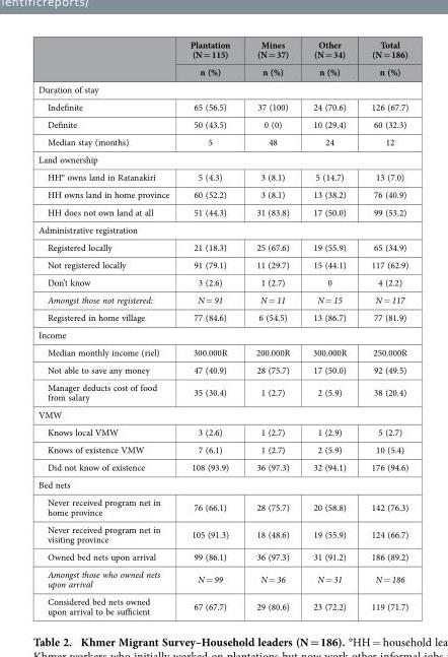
<table><thead><tr><td rowspan="2"></td><td rowspan="2">Plantation (N = 115) n (%)</td><td rowspan="2">Mines (N = 37) n (%)</td><td rowspan="2">Other (N = 34) n (%)</td><td rowspan="2">Total (N = 186) n (%)</td></tr><tr></tr></thead><tbody><tr><td colspan="5">Duration of stay</td></tr><tr><td>Indefinite</td><td>65 (56.5)</td><td>37 (100)</td><td>24 (70.6)</td><td>126 (67.7)</td></tr><tr><td>Definite</td><td>50 (43.5)</td><td>0 (0)</td><td>10 (29.4)</td><td>60 (32.3)</td></tr><tr><td>Median stay (months)</td><td>5</td><td>48</td><td>24</td><td>12</td></tr><tr><td colspan="5">Land ownership</td></tr><tr><td>HH° owns land in Ratanakiri</td><td>5 (4.3)</td><td>3 (8.1)</td><td>5 (14.7)</td><td>13 (7.0)</td></tr><tr><td>HH owns land in home province</td><td>60 (52.2)</td><td>3 (8.1)</td><td>13 (38.2)</td><td>76 (40.9)</td></tr><tr><td>HH does not own land at all</td><td>51 (44.3)</td><td>31 (83.8)</td><td>17 (50.0)</td><td>99 (53.2)</td></tr><tr><td colspan="5">Administrative registration</td></tr><tr><td>Registered locally</td><td>21 (18.3)</td><td>25 (67.6)</td><td>19 (55.9)</td><td>65 (34.9)</td></tr><tr><td>Not registered locally</td><td>91 (79.1)</td><td>11 (29.7)</td><td>15 (44.1)</td><td>117 (62.9)</td></tr><tr><td>Don’t know</td><td>3 (2.6)</td><td>1 (2.7)</td><td>0</td><td>4 (2.2)</td></tr><tr><td>Amongst those not registered:</td><td>N = 91</td><td>N = 11</td><td>N = 15</td><td>N = 117</td></tr><tr><td>Registered in home village</td><td>77 (84.6)</td><td>6 (54.5)</td><td>13 (86.7)</td><td>77 (81.9)</td></tr><tr><td colspan="5">Income</td></tr><tr><td>Median monthly income (riel)</td><td>300.000R</td><td>200.000R</td><td>300.000R</td><td>250.000R</td></tr><tr><td>Not able to save any money</td><td>47 (40.9)</td><td>28 (75.7)</td><td>17 (50.0)</td><td>92 (49.5)</td></tr><tr><td>Manager deducts cost of food from salary</td><td>35 (30.4)</td><td>1 (2.7)</td><td>2 (5.9)</td><td>38 (20.4)</td></tr><tr><td colspan="5">VMW</td></tr><tr><td>Knows local VMW</td><td>3 (2.6)</td><td>1 (2.7)</td><td>1 (2.9)</td><td>5 (2.7)</td></tr><tr><td>Knows of existence VMW</td><td>7 (6.1)</td><td>1 (2.7)</td><td>2 (5.9)</td><td>10 (5.4)</td></tr><tr><td>Did not know of existence</td><td>108 (93.9)</td><td>36 (97.3)</td><td>32 (94.1)</td><td>176 (94.6)</td></tr><tr><td colspan="5">Bed nets</td></tr><tr><td>Never received program net in home province</td><td>76 (66.1)</td><td>28 (75.7)</td><td>20 (58.8)</td><td>142 (76.3)</td></tr><tr><td>Never received program net in visiting province</td><td>105 (91.3)</td><td>18 (48.6)</td><td>19 (55.9)</td><td>124 (66.7)</td></tr><tr><td>Owned bed nets upon arrival</td><td>99 (86.1)</td><td>36 (97.3)</td><td>31 (91.2)</td><td>186 (89.2)</td></tr><tr><td>Amongst those who owned nets upon arrival</td><td>N = 99</td><td>N = 36</td><td>N = 31</td><td>N = 186</td></tr><tr><td>Considered bed nets owned upon arrival to be sufficient</td><td>67 (67.7)</td><td>29 (80.6)</td><td>23 (72.2)</td><td>119 (71.7)</td></tr></tbody></table>